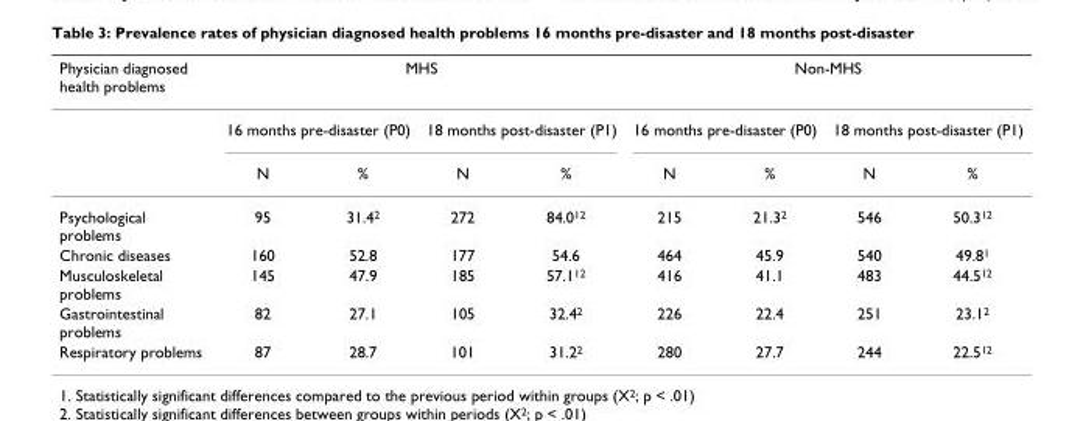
<table><thead><tr><td rowspan="3">Physician diagnosed health problems</td><td colspan="4">MHS</td><td colspan="4">Non-MHS</td></tr><tr><td colspan="2">16 months pre-disaster (P0)</td><td colspan="2">18 months post-disaster (P1)</td><td colspan="2">16 months pre-disaster (P0)</td><td colspan="2">18 months post-disaster (P1)</td></tr><tr><td>N</td><td>%</td><td>N</td><td>%</td><td>N</td><td>%</td><td>N</td><td>%</td></tr></thead><tbody><tr><td>Psychological problems</td><td>95</td><td>31.4<sup>2</sup></td><td>272</td><td>84.0<sup>12</sup></td><td>215</td><td>21.3<sup>2</sup></td><td>546</td><td>50.3<sup>12</sup></td></tr><tr><td>Chronic diseases</td><td>160</td><td>52.8</td><td>177</td><td>54.6</td><td>464</td><td>45.9</td><td>540</td><td>49.8<sup>1</sup></td></tr><tr><td>Musculoskeletal problems</td><td>145</td><td>47.9</td><td>185</td><td>57.1<sup>12</sup></td><td>416</td><td>41.1</td><td>483</td><td>44.5<sup>12</sup></td></tr><tr><td>Gastrointestinal problems</td><td>82</td><td>27.1</td><td>105</td><td>32.4<sup>2</sup></td><td>226</td><td>22.4</td><td>251</td><td>23.1<sup>2</sup></td></tr><tr><td>Respiratory problems</td><td>87</td><td>28.7</td><td>101</td><td>31.2<sup>2</sup></td><td>280</td><td>27.7</td><td>244</td><td>22.5<sup>12</sup></td></tr></tbody></table>